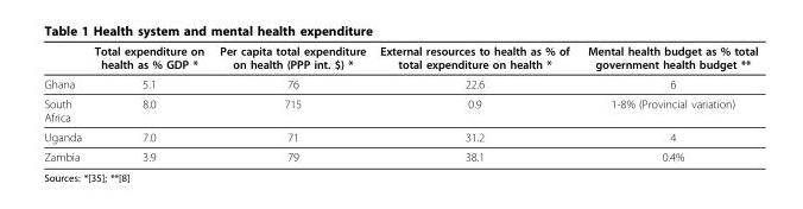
<table><thead><tr><td></td><td>Total expenditure on health as % GDP *</td><td>Per capita total expenditure on health (PPP int. $) *</td><td>External resources to health as % of total expenditure on health *</td><td>Mental health budget as % total government health budget **</td></tr></thead><tbody><tr><td>Ghana</td><td>5.1</td><td>76</td><td>22.6</td><td>6</td></tr><tr><td>South Africa</td><td>8.0</td><td>715</td><td>0.9</td><td>1-8% (Provincial variation)</td></tr><tr><td>Uganda</td><td>7.0</td><td>71</td><td>31.2</td><td>4</td></tr><tr><td>Zambia</td><td>3.9</td><td>79</td><td>38.1</td><td>0.4%</td></tr></tbody></table>